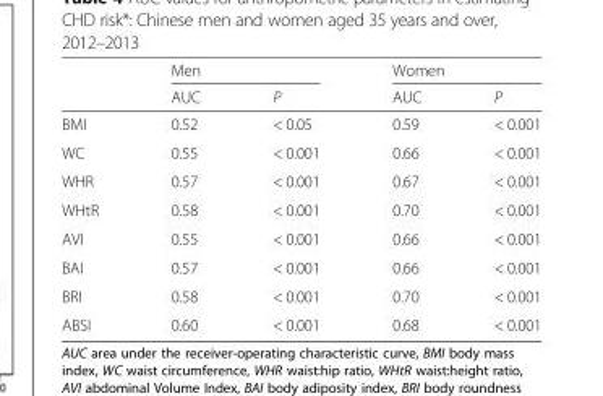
<table><thead><tr><td rowspan="2"></td><td colspan="2">Men</td><td colspan="2">Women</td></tr><tr><td>AUC</td><td>P</td><td>AUC</td><td>P</td></tr></thead><tbody><tr><td>BMI</td><td>0.52</td><td>&lt; 0.05</td><td>0.59</td><td>&lt; 0.001</td></tr><tr><td>WC</td><td>0.55</td><td>&lt; 0.001</td><td>0.66</td><td>&lt; 0.001</td></tr><tr><td>WHR</td><td>0.57</td><td>&lt; 0.001</td><td>0.67</td><td>&lt; 0.001</td></tr><tr><td>WHtR</td><td>0.58</td><td>&lt; 0.001</td><td>0.70</td><td>&lt; 0.001</td></tr><tr><td>AVI</td><td>0.55</td><td>&lt; 0.001</td><td>0.66</td><td>&lt; 0.001</td></tr><tr><td>BAI</td><td>0.57</td><td>&lt; 0.001</td><td>0.66</td><td>&lt; 0.001</td></tr><tr><td>BRI</td><td>0.58</td><td>&lt; 0.001</td><td>0.70</td><td>&lt; 0.001</td></tr><tr><td>ABSI</td><td>0.60</td><td>&lt; 0.001</td><td>0.68</td><td>&lt; 0.001</td></tr></tbody></table>